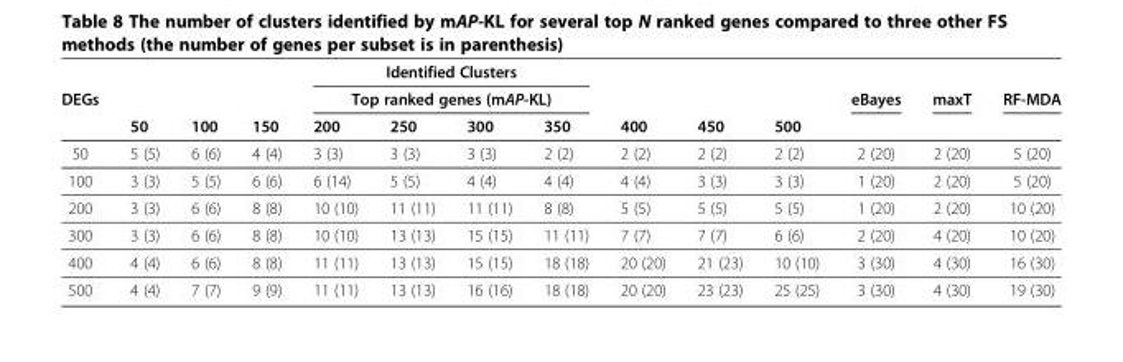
<table><thead><tr><td rowspan="3">DEGs</td><td rowspan="3">50</td><td rowspan="3">100</td><td rowspan="3">150</td><td rowspan="2" colspan="4">Identified Clusters Top ranked genes (mAP-KL)</td><td rowspan="3">400</td><td rowspan="3">450</td><td rowspan="3">500</td><td rowspan="3">eBayes</td><td rowspan="3">maxT</td><td rowspan="3">RF-MDA</td></tr><tr></tr><tr><td>200</td><td>250</td><td>300</td><td>350</td></tr></thead><tbody><tr><td>50</td><td>5 (5)</td><td>6 (6)</td><td>4 (4)</td><td>3 (3)</td><td>3 (3)</td><td>3 (3)</td><td>2 (2)</td><td>2 (2)</td><td>2 (2)</td><td>2 (2)</td><td>2 (20)</td><td>2 (20)</td><td>5 (20)</td></tr><tr><td>100</td><td>3 (3)</td><td>5 (5)</td><td>6 (6)</td><td>6 (14)</td><td>5 (5)</td><td>4 (4)</td><td>4 (4)</td><td>4 (4)</td><td>3 (3)</td><td>3 (3)</td><td>1 (20)</td><td>2 (20)</td><td>5 (20)</td></tr><tr><td>200</td><td>3 (3)</td><td>6 (6)</td><td>8 (8)</td><td>10 (10)</td><td>11 (11)</td><td>11 (11)</td><td>8 (8)</td><td>5 (5)</td><td>5 (5)</td><td>5 (5)</td><td>1 (20)</td><td>2 (20)</td><td>10 (20)</td></tr><tr><td>300</td><td>3 (3)</td><td>6 (6)</td><td>8 (8)</td><td>10 (10)</td><td>13 (13)</td><td>15 (15)</td><td>11 (11)</td><td>7 (7)</td><td>7 (7)</td><td>6 (6)</td><td>2 (20)</td><td>4 (20)</td><td>10 (20)</td></tr><tr><td>400</td><td>4 (4)</td><td>6 (6)</td><td>8 (8)</td><td>11 (11)</td><td>13 (13)</td><td>15 (15)</td><td>18 (18)</td><td>20 (20)</td><td>21 (23)</td><td>10 (10)</td><td>3 (30)</td><td>4 (30)</td><td>16 (30)</td></tr><tr><td>500</td><td>4 (4)</td><td>7 (7)</td><td>9 (9)</td><td>11 (11)</td><td>13 (13)</td><td>16 (16)</td><td>18 (18)</td><td>20 (20)</td><td>23 (23)</td><td>25 (25)</td><td>3 (30)</td><td>4 (30)</td><td>19 (30)</td></tr></tbody></table>